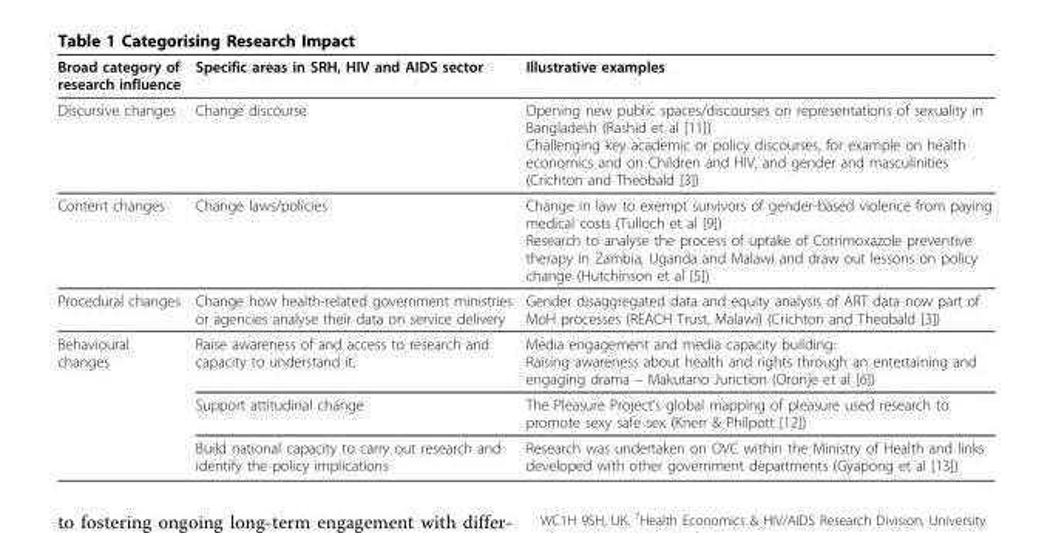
<table><thead><tr><td>Broad category of research influence</td><td>Specific areas in SRH, HIV and AIDS sector</td><td>Illustrative examples</td></tr></thead><tbody><tr><td>Discursive changes</td><td>Change discourse</td><td>Opening new public spaces/discourses on representations of sexuality in Bangladesh (Rashid et al [11]) Challenging key academic or policy discourses, for example on health economics and on Children and HIV, and gender and masculinities (Crichton and Theobald [3])</td></tr><tr><td>Content changes</td><td>Change laws/policies</td><td>Change in law to exempt survivors of gender-based violence from paying medical costs (Tulloch et al [9]) Research to analyse the process of uptake of Cotrimoxazole preventive therapy in Zambia, Uganda and Malawi and draw out lessons on policy change (Hutchinson et al [5])</td></tr><tr><td>Procedural changes</td><td>Change how health-related government ministries or agencies analyse their data on service delivery</td><td>Gender disaggregated data and equity analysis of ART data now part of MoH processes (REACH Trust, Malawi) (Crichton and Theobald [3])</td></tr><tr><td rowspan="3">Behavioural changes</td><td>Raise awareness of and access to research and capacity to understand it.</td><td>Media engagement and media capacity building: Raising awareness about health and rights through an entertaining and engaging drama – Makutano Junction (Oronje et al [6])</td></tr><tr><td>Support attitudinal change</td><td>The Pleasure Project’s global mapping of pleasure used research to promote sexy safe sex (Knerr &amp; Philpott [12])</td></tr><tr><td>Build national capacity to carry out research and identify the policy implications</td><td>Research was undertaken on OVC within the Ministry of Health and links developed with other government departments (Gyapong et al [13])</td></tr></tbody></table>